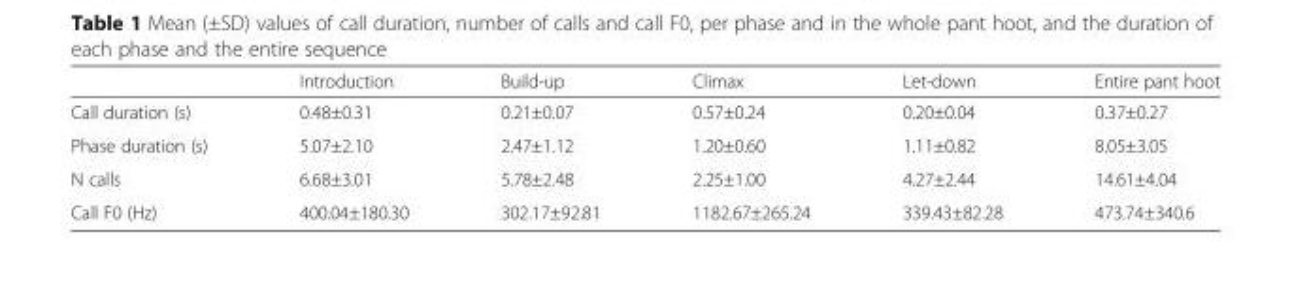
<table><thead><tr><td></td><td>Introduction</td><td>Build-up</td><td>Climax</td><td>Let-down</td><td>Entire pant hoot</td></tr></thead><tbody><tr><td>Call duration (s)</td><td>0.48±0.31</td><td>0.21±0.07</td><td>0.57±0.24</td><td>0.20±0.04</td><td>0.37±0.27</td></tr><tr><td>Phase duration (s)</td><td>5.07±2.10</td><td>2.47±1.12</td><td>1.20±0.60</td><td>1.11±0.82</td><td>8.05±3.05</td></tr><tr><td>N calls</td><td>6.68±3.01</td><td>5.78±2.48</td><td>2.25±1.00</td><td>4.27±2.44</td><td>14.61±4.04</td></tr><tr><td>Call F0 (Hz)</td><td>400.04±180.30</td><td>302.17±92.81</td><td>1182.67±265.24</td><td>339.43±82.28</td><td>473.74±340.6</td></tr></tbody></table>